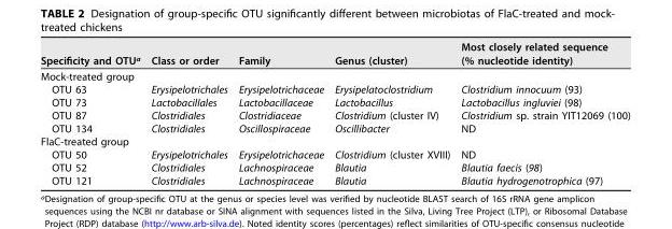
<table><thead><tr><td>Specificity and OTU<sup>a</sup></td><td>Class or order</td><td>Family</td><td>Genus (cluster)</td><td>Most closely related sequence (% nucleotide identity)</td></tr></thead><tbody><tr><td colspan="5">Mock-treated group</td></tr><tr><td>OTU 63</td><td>Erysipelotrichales</td><td>Erysipelotrichaceae</td><td>Erysipelatoclostridium</td><td>Clostridium innocuum (93)</td></tr><tr><td>OTU 73</td><td>Lactobacillales</td><td>Lactobacillaceae</td><td>Lactobacillus</td><td>Lactobacillus ingluviei (98)</td></tr><tr><td>OTU 87</td><td>Clostridiales</td><td>Clostridiaceae</td><td>Clostridium (cluster IV)</td><td>Clostridium sp. strain YIT12069 (100)</td></tr><tr><td>OTU 134</td><td>Clostridiales</td><td>Oscillospiraceae</td><td>Oscillibacter</td><td>ND</td></tr><tr><td colspan="5">FlaC-treated group</td></tr><tr><td>OTU 50</td><td>Erysipelotrichales</td><td>Erysipelotrichaceae</td><td>Clostridium (cluster XVIII)</td><td>ND</td></tr><tr><td>OTU 52</td><td>Clostridiales</td><td>Lachnospiraceae</td><td>Blautia</td><td>Blautia faecis (98)</td></tr><tr><td>OTU 121</td><td>Clostridiales</td><td>Lachnospiraceae</td><td>Blautia</td><td>Blautia hydrogenotrophica (97)</td></tr></tbody></table>